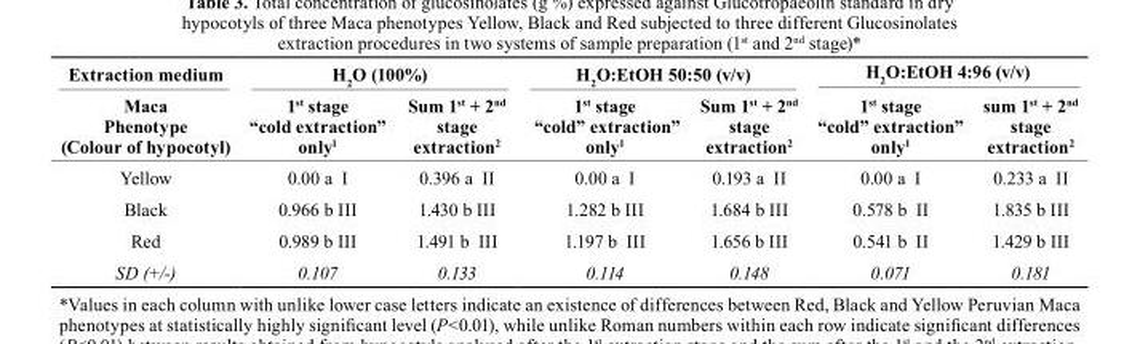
<table><thead><tr><td rowspan="2">Extraction medium Maca Phenotype (colour of hypocotyl)</td><td colspan="2">H<sub>2</sub>O (100%)</td><td colspan="2">H<sub>2</sub>O:EtOH 50:50 (v/v)</td><td colspan="2">H<sub>2</sub>O:EtOH 4:96 (v/v)</td></tr><tr><td>1<sup>st</sup> stage “cold extraction” only<sup>1</sup></td><td>sum 1<sup>st</sup> + 2<sup>nd</sup> stage extraction<sup>2</sup></td><td>1st stage “cold” extraction” only<sup>1</sup></td><td>sum 1<sup>st</sup> + 2<sup>nd</sup> stage extraction<sup>2</sup></td><td>1<sup>st</sup> stage “cold” extraction” only<sup>1</sup></td><td>sum 1<sup>st</sup> + 2<sup>nd</sup> stage extraction<sup>2</sup></td></tr></thead><tbody><tr><td>Yellow</td><td>0.00 a I</td><td>0.396 a II</td><td>0.00 a I</td><td>0.193 a II</td><td>0.00 a I</td><td>0.233 a II</td></tr><tr><td>Black</td><td>0.966 b III</td><td>1.430 b III</td><td>1.282 b III</td><td>1.684 b III</td><td>0.578 b II</td><td>1.835 b III</td></tr><tr><td>Red</td><td>0.989 b III</td><td>1.491 b III</td><td>1.197 b III</td><td>1.656 b III</td><td>0.541 b II</td><td>1.429 b III</td></tr><tr><td>SD (+/-)</td><td>0.107</td><td>0.133</td><td>0.114</td><td>0.148</td><td>0.071</td><td>0.181</td></tr></tbody></table>